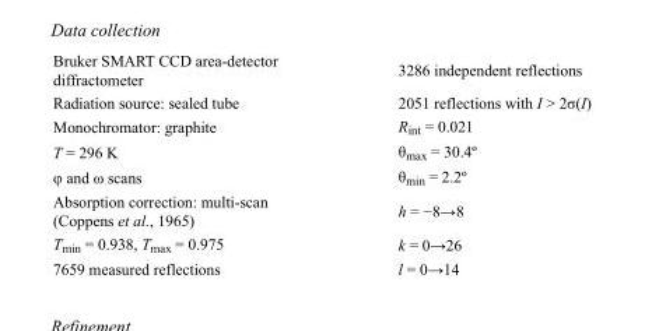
<table><tbody><tr><td>Bruker SMART CCD area-detector diffractometer</td><td>3286 independent reflections</td></tr><tr><td>Radiation source: sealed tube</td><td>2051 reflections with I &gt; 2σ(I)</td></tr><tr><td>Monochromator: graphite</td><td>R<sub>int</sub> = 0.021</td></tr><tr><td>T = 296 K</td><td>θ<sub>max</sub> = 30.4º</td></tr><tr><td>φ and ω scans</td><td>θ<sub>min</sub> = 2.2º</td></tr><tr><td>Absorption correction: multi-scan (Coppens et al., 1965)</td><td>h = −8→8</td></tr><tr><td>T<sub>min</sub> = 0.938, T<sub>max</sub> = 0.975</td><td>k = 0→26</td></tr><tr><td>7659 measured reflections</td><td>l = 0→14</td></tr></tbody></table>